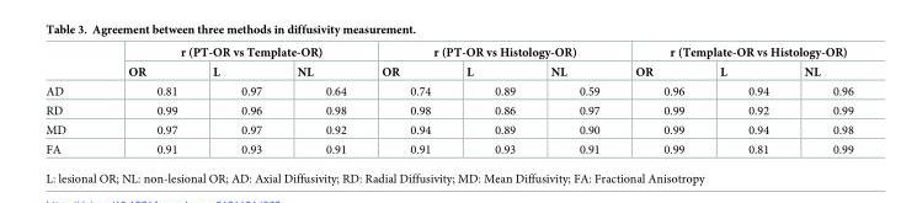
<table><thead><tr><td rowspan="2"></td><td colspan="3">r (PT-OR vs Template-OR)</td><td colspan="3">r (PT-OR vs Histology-OR)</td><td colspan="3">r (Template-OR vs Histology-OR)</td></tr><tr><td>OR</td><td>L</td><td>NL</td><td>OR</td><td>L</td><td>NL</td><td>OR</td><td>L</td><td>NL</td></tr></thead><tbody><tr><td>AD</td><td>0.81</td><td>0.97</td><td>0.64</td><td>0.74</td><td>0.89</td><td>0.59</td><td>0.96</td><td>0.94</td><td>0.96</td></tr><tr><td>RD</td><td>0.99</td><td>0.96</td><td>0.98</td><td>0.98</td><td>0.86</td><td>0.97</td><td>0.99</td><td>0.92</td><td>0.99</td></tr><tr><td>MD</td><td>0.97</td><td>0.97</td><td>0.92</td><td>0.94</td><td>0.89</td><td>0.90</td><td>0.99</td><td>0.94</td><td>0.98</td></tr><tr><td>FA</td><td>0.91</td><td>0.93</td><td>0.91</td><td>0.91</td><td>0.93</td><td>0.91</td><td>0.99</td><td>0.81</td><td>0.99</td></tr></tbody></table>